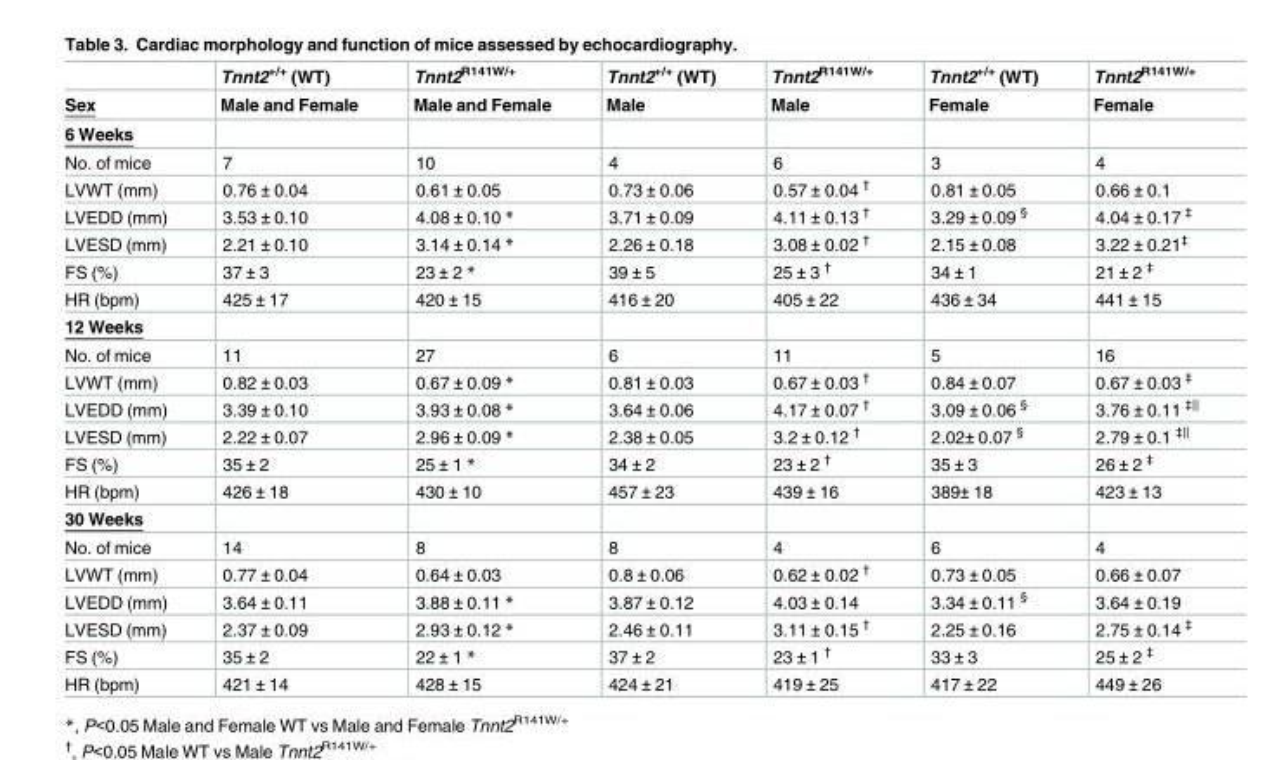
<table><thead><tr><td rowspan="2">Sex</td><td rowspan="2">Tnnt2<sup>+/+</sup> (WT) Male and Female</td><td rowspan="2">Tnnt2<sup>R141W/+</sup> Male and Female</td><td rowspan="2">Tnnt2<sup>+/+</sup> (WT) Male</td><td rowspan="2">Tnnt2<sup>R141W/+</sup> Male</td><td rowspan="2">Tnnt2<sup>+/+</sup> (WT) Female</td><td rowspan="2">Tnnt2<sup>R141W/+</sup> Female</td></tr><tr></tr></thead><tbody><tr><td colspan="7">6 Weeks</td></tr><tr><td>No. of mice</td><td>7</td><td>10</td><td>4</td><td>6</td><td>3</td><td>4</td></tr><tr><td>LVWT (mm)</td><td>0.76 ± 0.04</td><td>0.61 ± 0.05</td><td>0.73 ± 0.06</td><td>0.57 ± 0.04 <sup>†</sup></td><td>0.81 ± 0.05</td><td>0.66 ± 0.1</td></tr><tr><td>LVEDD (mm)</td><td>3.53 ± 0.10</td><td>4.08 ± 0.10 *</td><td>3.71 ± 0.09</td><td>4.11 ± 0.13 <sup>†</sup></td><td>3.29 ± 0.09 <sup>§</sup></td><td>4.04 ± 0.17 <sup>‡</sup></td></tr><tr><td>LVESD (mm)</td><td>2.21 ± 0.10</td><td>3.14 ± 0.14 *</td><td>2.26 ± 0.18</td><td>3.08 ± 0.02 <sup>†</sup></td><td>2.15 ± 0.08</td><td>3.22 ± 0.21<sup>‡</sup></td></tr><tr><td>FS (%)</td><td>37 ± 3</td><td>23 ± 2 *</td><td>39 ± 5</td><td>25 ± 3 <sup>†</sup></td><td>34 ± 1</td><td>21 ± 2 <sup>‡</sup></td></tr><tr><td>HR (bpm)</td><td>425 ± 17</td><td>420 ± 15</td><td>416 ± 20</td><td>405 ± 22</td><td>436 ± 34</td><td>441 ± 15</td></tr><tr><td colspan="7">12 Weeks</td></tr><tr><td>No. of mice</td><td>11</td><td>27</td><td>6</td><td>11</td><td>5</td><td>16</td></tr><tr><td>LVWT (mm)</td><td>0.82 ± 0.03</td><td>0.67 ± 0.09 *</td><td>0.81 ± 0.03</td><td>0.67 ± 0.03 <sup>†</sup></td><td>0.84 ± 0.07</td><td>0.67 ± 0.03 <sup>‡</sup></td></tr><tr><td>LVEDD (mm)</td><td>3.39 ± 0.10</td><td>3.93 ± 0.08 *</td><td>3.64 ± 0.06</td><td>4.17 ± 0.07 <sup>†</sup></td><td>3.09 ± 0.06 <sup>§</sup></td><td>3.76 ± 0.11 <sup>‡||</sup></td></tr><tr><td>LVESD (mm)</td><td>2.22 ± 0.07</td><td>2.96 ± 0.09 *</td><td>2.38 ± 0.05</td><td>3.2 ± 0.12 <sup>†</sup></td><td>2.02± 0.07 <sup>§</sup></td><td>2.79 ± 0.1 <sup>‡||</sup></td></tr><tr><td>FS (%)</td><td>35 ± 2</td><td>25 ± 1 *</td><td>34 ± 2</td><td>23 ± 2 <sup>†</sup></td><td>35 ± 3</td><td>26 ± 2 <sup>‡</sup></td></tr><tr><td>HR (bpm)</td><td>426 ± 18</td><td>430 ± 10</td><td>457 ± 23</td><td>439 ± 16</td><td>389± 18</td><td>423 ± 13</td></tr><tr><td colspan="7">30 Weeks</td></tr><tr><td>No. of mice</td><td>14</td><td>8</td><td>8</td><td>4</td><td>6</td><td>4</td></tr><tr><td>LVWT (mm)</td><td>0.77 ± 0.04</td><td>0.64 ± 0.03</td><td>0.8 ± 0.06</td><td>0.62 ± 0.02 <sup>†</sup></td><td>0.73 ± 0.05</td><td>0.66 ± 0.07</td></tr><tr><td>LVEDD (mm)</td><td>3.64 ± 0.11</td><td>3.88 ± 0.11 *</td><td>3.87 ± 0.12</td><td>4.03 ± 0.14</td><td>3.34 ± 0.11 <sup>§</sup></td><td>3.64 ± 0.19</td></tr><tr><td>LVESD (mm)</td><td>2.37 ± 0.09</td><td>2.93 ± 0.12 *</td><td>2.46 ± 0.11</td><td>3.11 ± 0.15 <sup>†</sup></td><td>2.25 ± 0.16</td><td>2.75 ± 0.14 <sup>‡</sup></td></tr><tr><td>FS (%)</td><td>35 ± 2</td><td>22 ± 1 *</td><td>37 ± 2</td><td>23 ± 1 <sup>†</sup></td><td>33 ± 3</td><td>25 ± 2 <sup>‡</sup></td></tr><tr><td>HR (bpm)</td><td>421 ± 14</td><td>428 ± 15</td><td>424 ± 21</td><td>419 ± 25</td><td>417 ± 22</td><td>449 ± 26</td></tr></tbody></table>